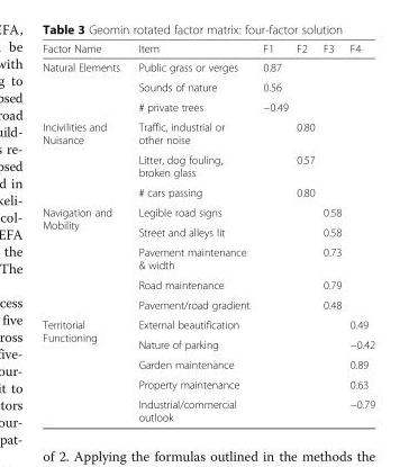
<table><thead><tr><td>Factor Name</td><td>Item</td><td>F1</td><td>F2</td><td>F3</td><td>F4</td></tr></thead><tbody><tr><td rowspan="3">Natural Elements</td><td>Public grass or verges</td><td>0.87</td><td></td><td></td><td></td></tr><tr><td>Sounds of nature</td><td>0.56</td><td></td><td></td><td></td></tr><tr><td># private trees</td><td>−0.49</td><td></td><td></td><td></td></tr><tr><td rowspan="3">Incivilities and Nuisance</td><td>Traffic, industrial or other noise</td><td></td><td>0.80</td><td></td><td></td></tr><tr><td>Litter, dog fouling, broken glass</td><td></td><td>0.57</td><td></td><td></td></tr><tr><td># cars passing</td><td></td><td>0.80</td><td></td><td></td></tr><tr><td rowspan="5">Navigation and Mobility</td><td>Legible road signs</td><td></td><td></td><td>0.58</td><td></td></tr><tr><td>Street and alleys lit</td><td></td><td></td><td>0.58</td><td></td></tr><tr><td>Pavement maintenance &amp; width</td><td></td><td></td><td>0.73</td><td></td></tr><tr><td>Road maintenance</td><td></td><td></td><td>0.79</td><td></td></tr><tr><td>Pavement/road gradient</td><td></td><td></td><td>0.48</td><td></td></tr><tr><td rowspan="5">Territorial Functioning</td><td>External beautification</td><td></td><td></td><td></td><td>0.49</td></tr><tr><td>Nature of parking</td><td></td><td></td><td></td><td>−0.42</td></tr><tr><td>Garden maintenance</td><td></td><td></td><td></td><td>0.89</td></tr><tr><td>Property maintenance</td><td></td><td></td><td></td><td>0.63</td></tr><tr><td>Industrial/commercial outlook</td><td></td><td></td><td></td><td>−0.79</td></tr></tbody></table>